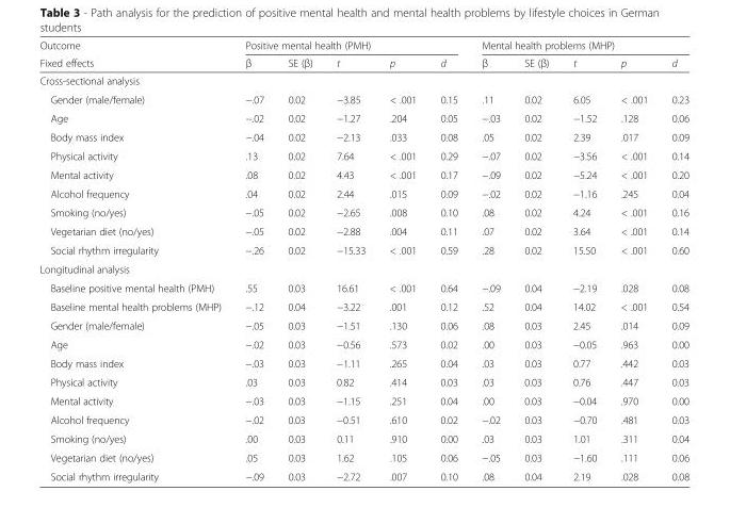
<table><thead><tr><td rowspan="2">Outcome Fixed effects</td><td colspan="5">Positive mental health (PMH)</td><td colspan="5">Mental health problems (MHP)</td></tr><tr><td>β</td><td>SE (β)</td><td>t</td><td>p</td><td>d</td><td>β</td><td>SE (β)</td><td>t</td><td>p</td><td>d</td></tr></thead><tbody><tr><td colspan="11">Cross-sectional analysis</td></tr><tr><td>Gender (male/female)</td><td>−.07</td><td>0.02</td><td>−3.85</td><td>&lt; .001</td><td>0.15</td><td>.11</td><td>0.02</td><td>6.05</td><td>&lt; .001</td><td>0.23</td></tr><tr><td>Age</td><td>−.02</td><td>0.02</td><td>−1.27</td><td>.204</td><td>0.05</td><td>−.03</td><td>0.02</td><td>−1.52</td><td>.128</td><td>0.06</td></tr><tr><td>Body mass index</td><td>−.04</td><td>0.02</td><td>−2.13</td><td>.033</td><td>0.08</td><td>.05</td><td>0.02</td><td>2.39</td><td>.017</td><td>0.09</td></tr><tr><td>Physical activity</td><td>.13</td><td>0.02</td><td>7.64</td><td>&lt; .001</td><td>0.29</td><td>−.07</td><td>0.02</td><td>−3.56</td><td>&lt; .001</td><td>0.14</td></tr><tr><td>Mental activity</td><td>.08</td><td>0.02</td><td>4.43</td><td>&lt; .001</td><td>0.17</td><td>−.09</td><td>0.02</td><td>−5.24</td><td>&lt; .001</td><td>0.20</td></tr><tr><td>Alcohol frequency</td><td>.04</td><td>0.02</td><td>2.44</td><td>.015</td><td>0.09</td><td>−.02</td><td>0.02</td><td>−1.16</td><td>.245</td><td>0.04</td></tr><tr><td>Smoking (no/yes)</td><td>−.05</td><td>0.02</td><td>−2.65</td><td>.008</td><td>0.10</td><td>.08</td><td>0.02</td><td>4.24</td><td>&lt; .001</td><td>0.16</td></tr><tr><td>Vegetarian diet (no/yes)</td><td>−.05</td><td>0.02</td><td>−2.88</td><td>.004</td><td>0.11</td><td>.07</td><td>0.02</td><td>3.64</td><td>&lt; .001</td><td>0.14</td></tr><tr><td>Social rhythm irregularity</td><td>−.26</td><td>0.02</td><td>−15.33</td><td>&lt; .001</td><td>0.59</td><td>.28</td><td>0.02</td><td>15.50</td><td>&lt; .001</td><td>0.60</td></tr><tr><td colspan="11">Longitudinal analysis</td></tr><tr><td>Baseline positive mental health (PMH)</td><td>.55</td><td>0.03</td><td>16.61</td><td>&lt; .001</td><td>0.64</td><td>−.09</td><td>0.04</td><td>−2.19</td><td>.028</td><td>0.08</td></tr><tr><td>Baseline mental health problems (MHP)</td><td>−.12</td><td>0.04</td><td>−3.22</td><td>.001</td><td>0.12</td><td>.52</td><td>0.04</td><td>14.02</td><td>&lt; .001</td><td>0.54</td></tr><tr><td>Gender (male/female)</td><td>−.05</td><td>0.03</td><td>−1.51</td><td>.130</td><td>0.06</td><td>.08</td><td>0.03</td><td>2.45</td><td>.014</td><td>0.09</td></tr><tr><td>Age</td><td>−.02</td><td>0.03</td><td>−0.56</td><td>.573</td><td>0.02</td><td>.00</td><td>0.03</td><td>−0.05</td><td>.963</td><td>0.00</td></tr><tr><td>Body mass index</td><td>−.03</td><td>0.03</td><td>−1.11</td><td>.265</td><td>0.04</td><td>.03</td><td>0.03</td><td>0.77</td><td>.442</td><td>0.03</td></tr><tr><td>Physical activity</td><td>.03</td><td>0.03</td><td>0.82</td><td>.414</td><td>0.03</td><td>.03</td><td>0.03</td><td>0.76</td><td>.447</td><td>0.03</td></tr><tr><td>Mental activity</td><td>−.03</td><td>0.03</td><td>−1.15</td><td>.251</td><td>0.04</td><td>.00</td><td>0.03</td><td>−0.04</td><td>.970</td><td>0.00</td></tr><tr><td>Alcohol frequency</td><td>−.02</td><td>0.03</td><td>−0.51</td><td>.610</td><td>0.02</td><td>−.02</td><td>0.03</td><td>−0.70</td><td>.481</td><td>0.03</td></tr><tr><td>Smoking (no/yes)</td><td>.00</td><td>0.03</td><td>0.11</td><td>.910</td><td>0.00</td><td>.03</td><td>0.03</td><td>1.01</td><td>.311</td><td>0.04</td></tr><tr><td>Vegetarian diet (no/yes)</td><td>.05</td><td>0.03</td><td>1.62</td><td>.105</td><td>0.06</td><td>−.05</td><td>0.03</td><td>−1.60</td><td>.111</td><td>0.06</td></tr><tr><td>Social rhythm irregularity</td><td>−.09</td><td>0.03</td><td>−2.72</td><td>.007</td><td>0.10</td><td>.08</td><td>0.04</td><td>2.19</td><td>.028</td><td>0.08</td></tr></tbody></table>